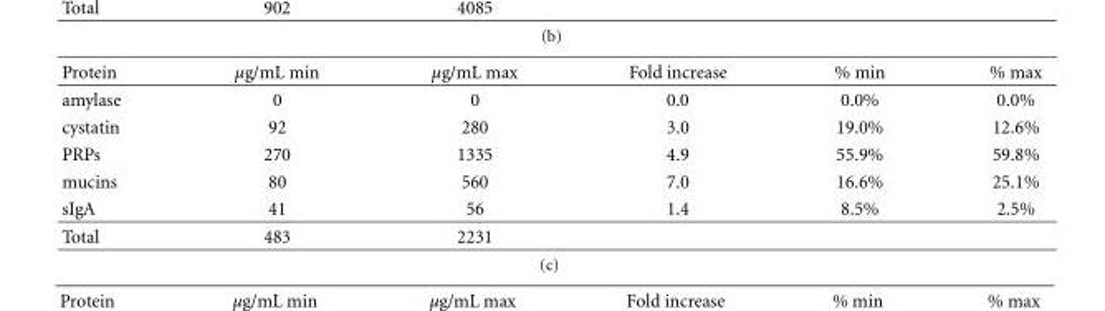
<table><thead><tr><td>Protein</td><td>μg/mL min</td><td>μg/mL max</td><td>Fold increase</td><td>% min</td><td>% max</td></tr></thead><tbody><tr><td>amylase</td><td>0</td><td>0</td><td>0.0</td><td>0.0%</td><td>0.0%</td></tr><tr><td>cystatin</td><td>92</td><td>280</td><td>3.0</td><td>19.0%</td><td>12.6%</td></tr><tr><td>PRPs</td><td>270</td><td>1335</td><td>4.9</td><td>55.9%</td><td>59.8%</td></tr><tr><td>mucins</td><td>80</td><td>560</td><td>7.0</td><td>16.6%</td><td>25.1%</td></tr><tr><td>sIgA</td><td>41</td><td>56</td><td>1.4</td><td>8.5%</td><td>2.5%</td></tr><tr><td>Total</td><td>483</td><td>2231</td><td></td><td></td><td></td></tr></tbody></table>